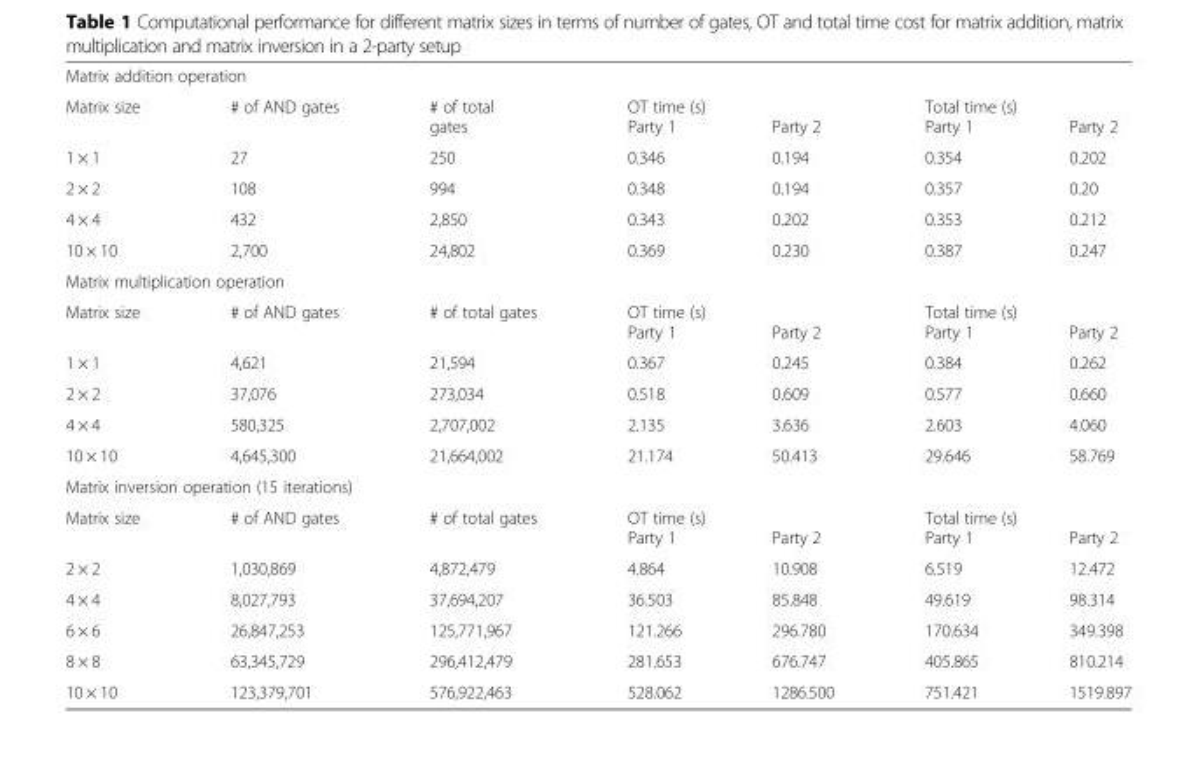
<table><tbody><tr><td colspan="7">Matrix addition operation</td></tr><tr><td rowspan="2">Matrix size</td><td rowspan="2"># of AND gates</td><td rowspan="2"># of total gates</td><td colspan="2">OT time (s)</td><td colspan="2">Total time (s)</td></tr><tr><td>Party 1</td><td>Party 2</td><td>Party 1</td><td>Party 2</td></tr><tr><td>1 × 1</td><td>27</td><td>250</td><td>0.346</td><td>0.194</td><td>0.354</td><td>0.202</td></tr><tr><td>2 × 2</td><td>108</td><td>994</td><td>0.348</td><td>0.194</td><td>0.357</td><td>0.20</td></tr><tr><td>4 × 4</td><td>432</td><td>2,850</td><td>0.343</td><td>0.202</td><td>0.353</td><td>0.212</td></tr><tr><td>10 × 10</td><td>2,700</td><td>24,802</td><td>0.369</td><td>0.230</td><td>0.387</td><td>0.247</td></tr><tr><td colspan="7">Matrix multiplication operation</td></tr><tr><td rowspan="2">Matrix size</td><td rowspan="2"># of AND gates</td><td rowspan="2"># of total gates</td><td colspan="2">OT time (s)</td><td colspan="2">Total time (s)</td></tr><tr><td>Party 1</td><td>Party 2</td><td>Party 1</td><td>Party 2</td></tr><tr><td>1 × 1</td><td>4,621</td><td>21,594</td><td>0.367</td><td>0.245</td><td>0.384</td><td>0.262</td></tr><tr><td>2 × 2</td><td>37,076</td><td>273,034</td><td>0.518</td><td>0.609</td><td>0.577</td><td>0.660</td></tr><tr><td>4 × 4</td><td>580,325</td><td>2,707,002</td><td>2.135</td><td>3.636</td><td>2.603</td><td>4.060</td></tr><tr><td>10 × 10</td><td>4,645,300</td><td>21,664,002</td><td>21.174</td><td>50.413</td><td>29.646</td><td>58.769</td></tr><tr><td colspan="7">Matrix inversion operation (15 iterations)</td></tr><tr><td rowspan="2">Matrix size</td><td rowspan="2"># of AND gates</td><td rowspan="2"># of total gates</td><td colspan="2">OT time (s)</td><td colspan="2">Total time (s)</td></tr><tr><td>Party 1</td><td>Party 2</td><td>Party 1</td><td>Party 2</td></tr><tr><td>2 × 2</td><td>1,030,869</td><td>4,872,479</td><td>4.864</td><td>10.908</td><td>6.519</td><td>12.472</td></tr><tr><td>4 × 4</td><td>8,027,793</td><td>37,694,207</td><td>36.503</td><td>85.848</td><td>49.619</td><td>98.314</td></tr><tr><td>6 × 6</td><td>26,847,253</td><td>125,771,967</td><td>121.266</td><td>296.780</td><td>170.634</td><td>349.398</td></tr><tr><td>8 × 8</td><td>63,345,729</td><td>296,412,479</td><td>281.653</td><td>676.747</td><td>405.865</td><td>810.214</td></tr><tr><td>10 × 10</td><td>123,379,701</td><td>576,922,463</td><td>528.062</td><td>1286.500</td><td>751.421</td><td>1519.897</td></tr></tbody></table>